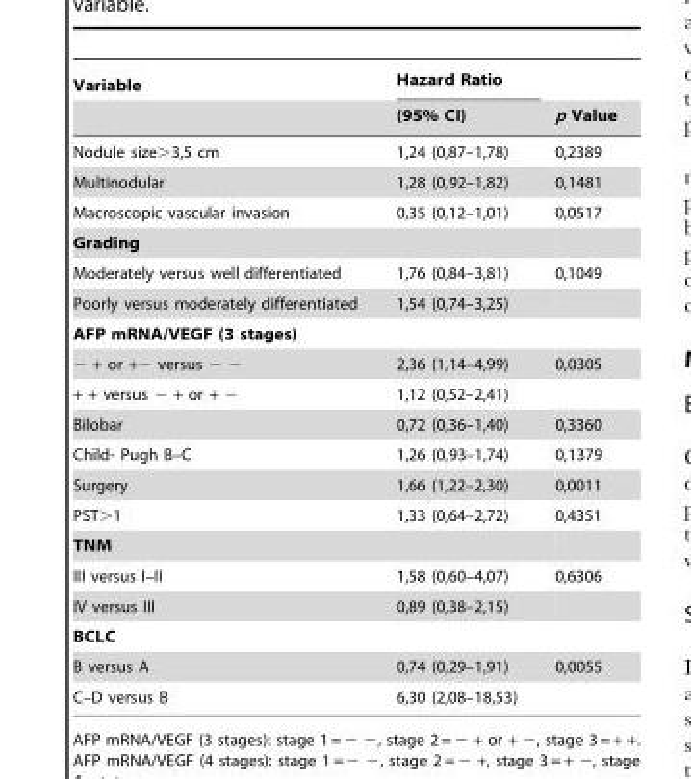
<table><thead><tr><td rowspan="2">Variable</td><td rowspan="2">Hazard Ratio (95% CI)</td><td rowspan="2">p Value</td></tr><tr></tr></thead><tbody><tr><td>Nodule size&gt;3,5 cm</td><td>1,24 (0,87–1,78)</td><td>0,2389</td></tr><tr><td>Multinodular</td><td>1,28 (0,92–1,82)</td><td>0,1481</td></tr><tr><td>Macroscopic vascular invasion</td><td>0,35 (0,12–1,01)</td><td>0,0517</td></tr><tr><td colspan="3">Grading</td></tr><tr><td>Moderately versus well differentiated</td><td>1,76 (0,84–3,81)</td><td>0,1049</td></tr><tr><td>Poorly versus moderately differentiated</td><td>1,54 (0,74–3,25)</td><td></td></tr><tr><td colspan="3">AFP mRNA/VEGF (3 stages)</td></tr><tr><td>− + or +− versus − −</td><td>2,36 (1,14–4,99)</td><td>0,0305</td></tr><tr><td>+ + versus − + or + −</td><td>1,12 (0,52–2,41)</td><td></td></tr><tr><td>Bilobar</td><td>0,72 (0,36–1,40)</td><td>0,3360</td></tr><tr><td>Child- Pugh B–C</td><td>1,26 (0,93–1,74)</td><td>0,1379</td></tr><tr><td>Surgery</td><td>1,66 (1,22–2,30)</td><td>0,0011</td></tr><tr><td>PST&gt;1</td><td>1,33 (0,64–2,72)</td><td>0,4351</td></tr><tr><td colspan="3">TNM</td></tr><tr><td>III versus I–II</td><td>1,58 (0,60–4,07)</td><td>0,6306</td></tr><tr><td>IV versus III</td><td>0,89 (0,38–2,15)</td><td></td></tr><tr><td colspan="3">BCLC</td></tr><tr><td>B versus A</td><td>0,74 (0,29–1,91)</td><td>0,0055</td></tr><tr><td>C–D versus B</td><td>6,30 (2,08–18,53)</td><td></td></tr></tbody></table>